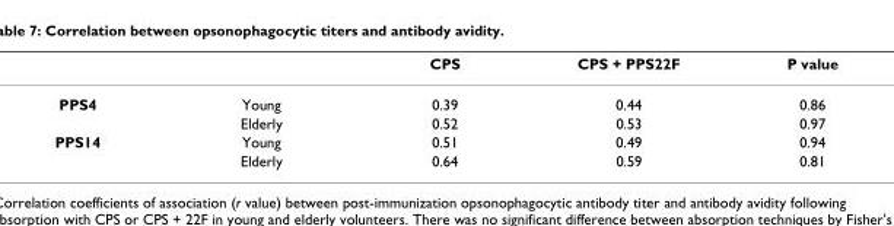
<table><thead><tr><td></td><td></td><td>CPS</td><td>CPS + PPS22F</td><td>P value</td></tr></thead><tbody><tr><td rowspan="2">PPS4</td><td>Young</td><td>0.39</td><td>0.44</td><td>0.86</td></tr><tr><td>Elderly</td><td>0.52</td><td>0.53</td><td>0.97</td></tr><tr><td rowspan="2">PPS14</td><td>Young</td><td>0.51</td><td>0.49</td><td>0.94</td></tr><tr><td>Elderly</td><td>0.64</td><td>0.59</td><td>0.81</td></tr></tbody></table>